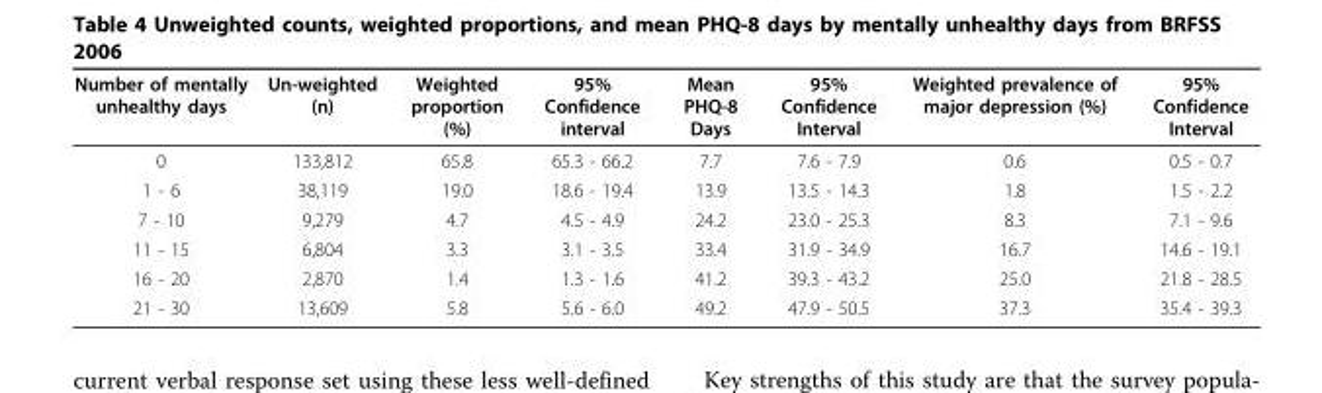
<table><thead><tr><td>Number of mentally unhealthy days</td><td>Un-weighted (n)</td><td>Weighted proportion (%)</td><td>95% Confidence interval</td><td>Mean PHQ-8 Days</td><td>95% Confidence Interval</td><td>Weighted prevalence of major depression (%)</td><td>95% Confidence Interval</td></tr></thead><tbody><tr><td>0</td><td>133,812</td><td>65.8</td><td>65.3 - 66.2</td><td>7.7</td><td>7.6 - 7.9</td><td>0.6</td><td>0.5 - 0.7</td></tr><tr><td>1 - 6</td><td>38,119</td><td>19.0</td><td>18.6 - 19.4</td><td>13.9</td><td>13.5 - 14.3</td><td>1.8</td><td>1.5 - 2.2</td></tr><tr><td>7 - 10</td><td>9,279</td><td>4.7</td><td>4.5 - 4.9</td><td>24.2</td><td>23.0 - 25.3</td><td>8.3</td><td>7.1 - 9.6</td></tr><tr><td>11 - 15</td><td>6,804</td><td>3.3</td><td>3.1 - 3.5</td><td>33.4</td><td>31.9 - 34.9</td><td>16.7</td><td>14.6 - 19.1</td></tr><tr><td>16 - 20</td><td>2,870</td><td>1.4</td><td>1.3 - 1.6</td><td>41.2</td><td>39.3 - 43.2</td><td>25.0</td><td>21.8 - 28.5</td></tr><tr><td>21 - 30</td><td>13,609</td><td>5.8</td><td>5.6 - 6.0</td><td>49.2</td><td>47.9 - 50.5</td><td>37.3</td><td>35.4 - 39.3</td></tr></tbody></table>